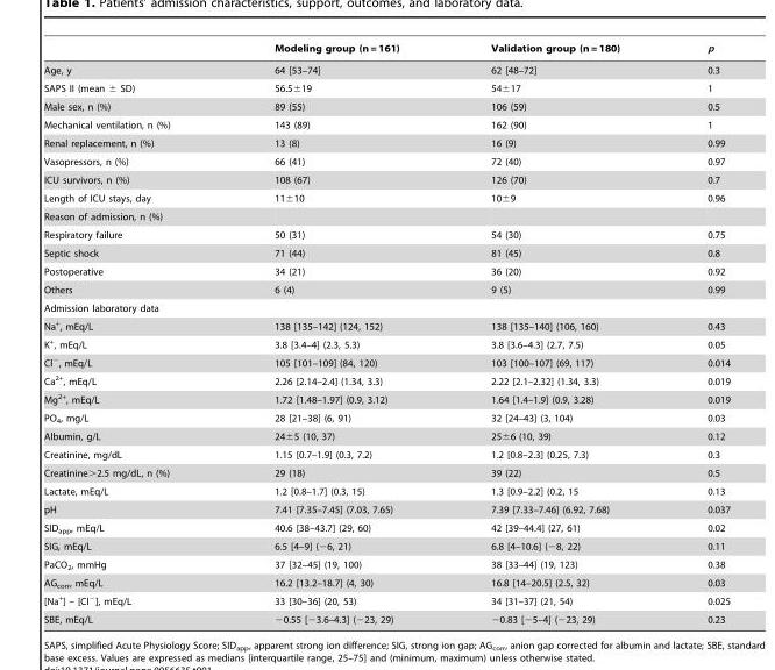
<table><thead><tr><td></td><td>Modeling group (n = 161)</td><td>Validation group (n = 180)</td><td>p</td></tr></thead><tbody><tr><td>Age, y</td><td>64 [53–74]</td><td>62 [48–72]</td><td>0.3</td></tr><tr><td>SAPS II (mean ± SD)</td><td>56.5±19</td><td>54±17</td><td>1</td></tr><tr><td>Male sex, n (%)</td><td>89 (55)</td><td>106 (59)</td><td>0.5</td></tr><tr><td>Mechanical ventilation, n (%)</td><td>143 (89)</td><td>162 (90)</td><td>1</td></tr><tr><td>Renal replacement, n (%)</td><td>13 (8)</td><td>16 (9)</td><td>0.99</td></tr><tr><td>Vasopressors, n (%)</td><td>66 (41)</td><td>72 (40)</td><td>0.97</td></tr><tr><td>ICU survivors, n (%)</td><td>108 (67)</td><td>126 (70)</td><td>0.7</td></tr><tr><td>Length of ICU stays, day</td><td>11±10</td><td>10±9</td><td>0.96</td></tr><tr><td colspan="4">Reason of admission, n (%)</td></tr><tr><td>Respiratory failure</td><td>50 (31)</td><td>54 (30)</td><td>0.75</td></tr><tr><td>Septic shock</td><td>71 (44)</td><td>81 (45)</td><td>0.8</td></tr><tr><td>Postoperative</td><td>34 (21)</td><td>36 (20)</td><td>0.92</td></tr><tr><td>Others</td><td>6 (4)</td><td>9 (5)</td><td>0.99</td></tr><tr><td colspan="4">Admission laboratory data</td></tr><tr><td>Na<sup>+</sup>, mEq/L</td><td>138 [135–142] (124, 152)</td><td>138 [135–140] (106, 160)</td><td>0.43</td></tr><tr><td>K<sup>+</sup>, mEq/L</td><td>3.8 [3.4–4] (2.3, 5.3)</td><td>3.8 [3.6–4.3] (2.7, 7.5)</td><td>0.05</td></tr><tr><td>Cl<sup>−</sup>, mEq/L</td><td>105 [101–109] (84, 120)</td><td>103 [100–107] (69, 117)</td><td>0.014</td></tr><tr><td>Ca<sup>2+</sup>, mEq/L</td><td>2.26 [2.14–2.4] (1.34, 3.3)</td><td>2.22 [2.1–2.32] (1.34, 3.3)</td><td>0.019</td></tr><tr><td>Mg<sup>2+</sup>, mEq/L</td><td>1.72 [1.48–1.97] (0.9, 3.12)</td><td>1.64 [1.4–1.9] (0.9, 3.28)</td><td>0.019</td></tr><tr><td>PO<sub>4</sub>, mg/L</td><td>28 [21–38] (6, 91)</td><td>32 [24–43] (3, 104)</td><td>0.03</td></tr><tr><td>Albumin, g/L</td><td>24±5 (10, 37)</td><td>25±6 (10, 39)</td><td>0.12</td></tr><tr><td>Creatinine, mg/dL</td><td>1.15 [0.7–1.9] (0.3, 7.2)</td><td>1.2 [0.8–2.3] (0.25, 7.3)</td><td>0.3</td></tr><tr><td>Creatinine&gt;2.5 mg/dL, n (%)</td><td>29 (18)</td><td>39 (22)</td><td>0.5</td></tr><tr><td>Lactate, mEq/L</td><td>1.2 [0.8–1.7] (0.3, 15)</td><td>1.3 [0.9–2.2] (0.2, 15</td><td>0.13</td></tr><tr><td>pH</td><td>7.41 [7.35–7.45] (7.03, 7.65)</td><td>7.39 [7.33–7.46] (6.92, 7.68)</td><td>0.037</td></tr><tr><td>SID<sub>app</sub>, mEq/L</td><td>40.6 [38–43.7] (29, 60)</td><td>42 [39–44.4] (27, 61)</td><td>0.02</td></tr><tr><td>SIG, mEq/L</td><td>6.5 [4–9] (−6, 21)</td><td>6.8 [4–10.6] (−8, 22)</td><td>0.11</td></tr><tr><td>PaCO<sub>2</sub>, mmHg</td><td>37 [32–45] (19, 100)</td><td>38 [33–44] (19, 123)</td><td>0.38</td></tr><tr><td>AG<sub>corr</sub>, mEq/L</td><td>16.2 [13.2–18.7] (4, 30)</td><td>16.8 [14–20.5] (2.5, 32)</td><td>0.03</td></tr><tr><td>[Na<sup>+</sup>] – [Cl<sup>−</sup>], mEq/L</td><td>33 [30–36] (20, 53)</td><td>34 [31–37] (21, 54)</td><td>0.025</td></tr><tr><td>SBE, mEq/L</td><td>−0.55 [−3.6–4.3] (−23, 29)</td><td>−0.83 [−5–4] (−23, 29)</td><td>0.23</td></tr></tbody></table>